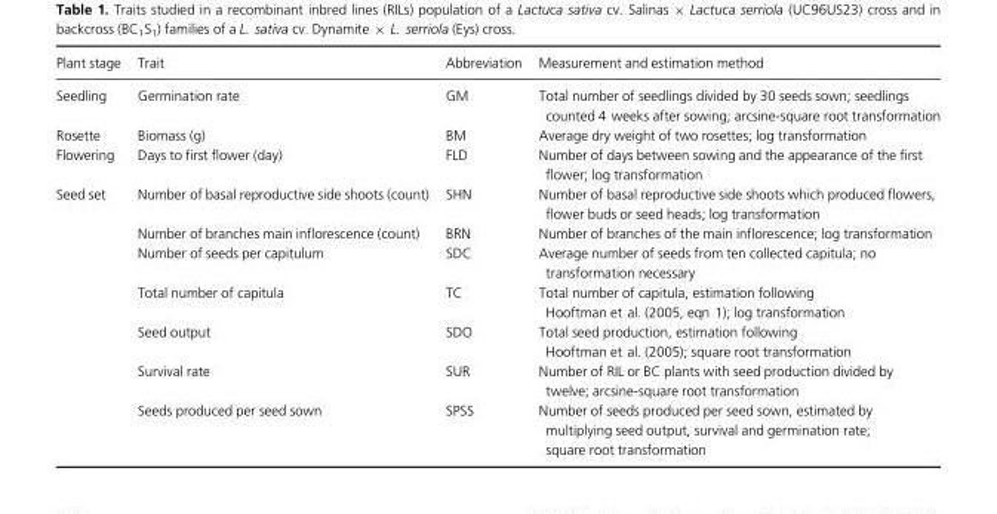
<table><thead><tr><td>Plant stage</td><td>Trait</td><td>Abbreviation</td><td>Measurement and estimation method</td></tr></thead><tbody><tr><td>Seedling</td><td>Germination rate</td><td>GM</td><td>Total number of seedlings divided by 30 seeds sown; seedlings counted 4 weeks after sowing; arcsine-square root transformation</td></tr><tr><td>Rosette</td><td>Biomass (g)</td><td>BM</td><td>Average dry weight of two rosettes; log transformation</td></tr><tr><td>Flowering</td><td>Days to first flower (day)</td><td>FLD</td><td>Number of days between sowing and the appearance of the first flower; log transformation</td></tr><tr><td rowspan="7">Seed set</td><td>Number of basal reproductive side shoots (count)</td><td>SHN</td><td>Number of basal reproductive side shoots which produced flowers, flower buds or seed heads; log transformation</td></tr><tr><td>Number of branches main inflorescence (count)</td><td>BRN</td><td>Number of branches of the main inflorescence; log transformation</td></tr><tr><td>Number of seeds per capitulum</td><td>SDC</td><td>Average number of seeds from ten collected capitula; no transformation necessary</td></tr><tr><td>Total number of capitula</td><td>TC</td><td>Total number of capitula, estimation following Hooftman et al. (2005, eqn 1); log transformation</td></tr><tr><td>Seed output</td><td>SDO</td><td>Total seed production, estimation following Hooftman et al. (2005); square root transformation</td></tr><tr><td>Survival rate</td><td>SUR</td><td>Number of RIL or BC plants with seed production divided by twelve; arcsine-square root transformation</td></tr><tr><td>Seeds produced per seed sown</td><td>SPSS</td><td>Number of seeds produced per seed sown, estimated by multiplying seed output, survival and germination rate; square root transformation</td></tr></tbody></table>